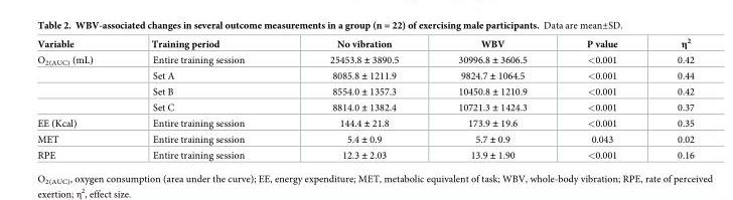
<table><thead><tr><td>Variable</td><td>Training period</td><td>No vibration</td><td>WBV</td><td>P value</td><td>η<sup>2</sup></td></tr></thead><tbody><tr><td rowspan="4">O<sub>2(AUC)</sub> (mL)</td><td>Entire training session</td><td>25453.8 ± 3890.5</td><td>30996.8 ± 3606.5</td><td>&lt;0.001</td><td>0.42</td></tr><tr><td>Set A</td><td>8085.8 ± 1211.9</td><td>9824.7 ± 1064.5</td><td>&lt;0.001</td><td>0.44</td></tr><tr><td>Set B</td><td>8554.0 ± 1357.3</td><td>10450.8 ± 1210.9</td><td>&lt;0.001</td><td>0.42</td></tr><tr><td>Set C</td><td>8814.0 ± 1382.4</td><td>10721.3 ± 1424.3</td><td>&lt;0.001</td><td>0.37</td></tr><tr><td>EE (Kcal)</td><td>Entire training session</td><td>144.4 ± 21.8</td><td>173.9 ± 19.6</td><td>&lt;0.001</td><td>0.35</td></tr><tr><td>MET</td><td>Entire training session</td><td>5.4 ± 0.9</td><td>5.7 ± 0.9</td><td>0.043</td><td>0.02</td></tr><tr><td>RPE</td><td>Entire training session</td><td>12.3 ± 2.03</td><td>13.9 ± 1.90</td><td>&lt;0.001</td><td>0.16</td></tr></tbody></table>